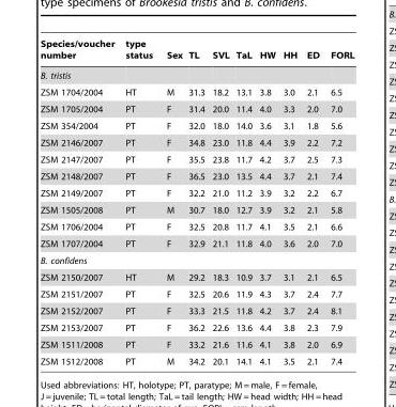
<table><thead><tr><td>Species/voucher number</td><td>type status</td><td>Sex</td><td>TL</td><td>SVL</td><td>TaL</td><td>HW</td><td>HH</td><td>ED</td><td>FORL</td></tr></thead><tbody><tr><td colspan="10">B. tristis</td></tr><tr><td>ZSM 1704/2004</td><td>HT</td><td>M</td><td>31.3</td><td>18.2</td><td>13.1</td><td>3.8</td><td>3.0</td><td>2.1</td><td>6.5</td></tr><tr><td>ZSM 1705/2004</td><td>PT</td><td>F</td><td>31.4</td><td>20.0</td><td>11.4</td><td>4.0</td><td>3.3</td><td>2.0</td><td>7.0</td></tr><tr><td>ZSM 354/2004</td><td>PT</td><td>F</td><td>32.0</td><td>18.0</td><td>14.0</td><td>3.6</td><td>3.1</td><td>1.8</td><td>5.6</td></tr><tr><td>ZSM 2146/2007</td><td>PT</td><td>F</td><td>34.8</td><td>23.0</td><td>11.8</td><td>4.4</td><td>3.9</td><td>2.2</td><td>7.2</td></tr><tr><td>ZSM 2147/2007</td><td>PT</td><td>F</td><td>35.5</td><td>23.8</td><td>11.7</td><td>4.2</td><td>3.7</td><td>2.5</td><td>7.3</td></tr><tr><td>ZSM 2148/2007</td><td>PT</td><td>F</td><td>36.5</td><td>23.0</td><td>13.5</td><td>4.4</td><td>3.7</td><td>2.1</td><td>7.4</td></tr><tr><td>ZSM 2149/2007</td><td>PT</td><td>F</td><td>32.2</td><td>21.0</td><td>11.2</td><td>3.9</td><td>3.2</td><td>2.2</td><td>6.7</td></tr><tr><td>ZSM 1505/2008</td><td>PT</td><td>M</td><td>30.7</td><td>18.0</td><td>12.7</td><td>3.9</td><td>3.2</td><td>2.1</td><td>5.8</td></tr><tr><td>ZSM 1706/2004</td><td>PT</td><td>F</td><td>32.5</td><td>20.8</td><td>11.7</td><td>4.1</td><td>3.5</td><td>2.1</td><td>6.6</td></tr><tr><td>ZSM 1707/2004</td><td>PT</td><td>F</td><td>32.9</td><td>21.1</td><td>11.8</td><td>4.0</td><td>3.6</td><td>2.0</td><td>7.0</td></tr><tr><td colspan="10">B. confidens</td></tr><tr><td>ZSM 2150/2007</td><td>HT</td><td>M</td><td>29.2</td><td>18.3</td><td>10.9</td><td>3.7</td><td>3.1</td><td>2.1</td><td>6.5</td></tr><tr><td>ZSM 2151/2007</td><td>PT</td><td>F</td><td>32.5</td><td>20.6</td><td>11.9</td><td>4.3</td><td>3.7</td><td>2.4</td><td>7.7</td></tr><tr><td>ZSM 2152/2007</td><td>PT</td><td>F</td><td>33.3</td><td>21.5</td><td>11.8</td><td>4.2</td><td>3.7</td><td>2.4</td><td>8.1</td></tr><tr><td>ZSM 2153/2007</td><td>PT</td><td>F</td><td>36.2</td><td>22.6</td><td>13.6</td><td>4.4</td><td>3.8</td><td>2.3</td><td>7.9</td></tr><tr><td>ZSM 1511/2008</td><td>PT</td><td>F</td><td>33.2</td><td>21.6</td><td>11.6</td><td>4.1</td><td>3.8</td><td>2.0</td><td>6.9</td></tr><tr><td>ZSM 1512/2008</td><td>PT</td><td>M</td><td>34.2</td><td>20.1</td><td>14.1</td><td>4.1</td><td>3.5</td><td>2.1</td><td>7.4</td></tr></tbody></table>